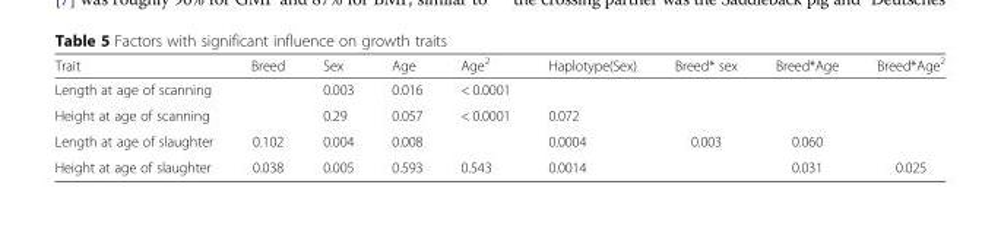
<table><thead><tr><td>Trait</td><td>Breed</td><td>Sex</td><td>Age</td><td>Age<sup>2</sup></td><td>Haplotype(Sex)</td><td>Breed* sex</td><td>Breed*Age</td><td>Breed*Age<sup>2</sup></td></tr></thead><tbody><tr><td>Length at age of scanning</td><td></td><td>0.003</td><td>0.016</td><td>&lt; 0.0001</td><td></td><td></td><td></td><td></td></tr><tr><td>Height at age of scanning</td><td></td><td>0.29</td><td>0.057</td><td>&lt; 0.0001</td><td>0.072</td><td></td><td></td><td></td></tr><tr><td>Length at age of slaughter</td><td>0.102</td><td>0.004</td><td>0.008</td><td></td><td>0.0004</td><td>0.003</td><td>0.060</td><td></td></tr><tr><td>Height at age of slaughter</td><td>0.038</td><td>0.005</td><td>0.593</td><td>0.543</td><td>0.0014</td><td></td><td>0.031</td><td>0.025</td></tr></tbody></table>